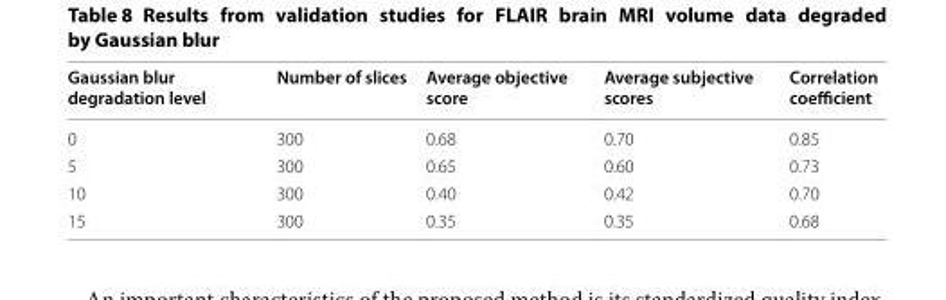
<table><thead><tr><td>Gaussian blur degradation level</td><td>Number of slices</td><td>Average objective score</td><td>Average subjective scores</td><td>Correlation coefficient</td></tr></thead><tbody><tr><td>0</td><td>300</td><td>0.68</td><td>0.70</td><td>0.85</td></tr><tr><td>5</td><td>300</td><td>0.65</td><td>0.60</td><td>0.73</td></tr><tr><td>10</td><td>300</td><td>0.40</td><td>0.42</td><td>0.70</td></tr><tr><td>15</td><td>300</td><td>0.35</td><td>0.35</td><td>0.68</td></tr></tbody></table>